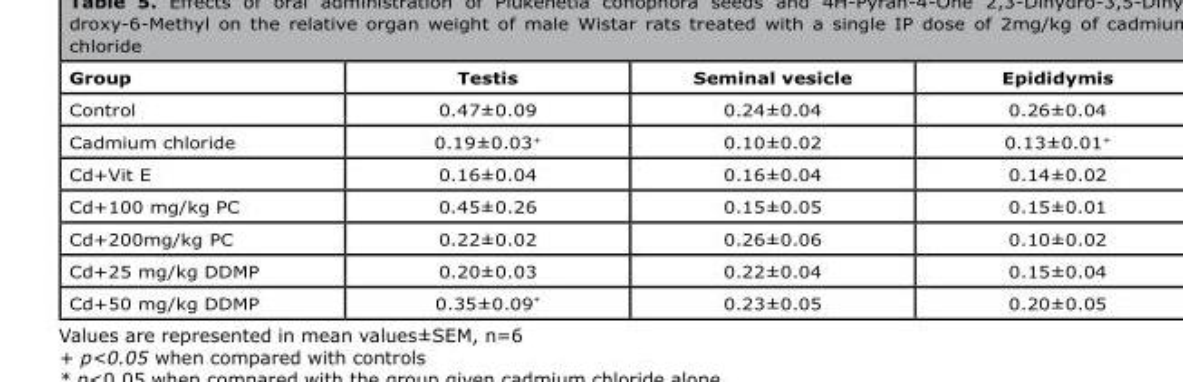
<table><thead><tr><td>Group</td><td>Testis</td><td>Seminal vesicle</td><td>Epididymis</td></tr></thead><tbody><tr><td>Control</td><td>0.47±0.09</td><td>0.24±0.04</td><td>0.26±0.04</td></tr><tr><td>Cadmium chloride</td><td>0.19±0.03<sup>+</sup></td><td>0.10±0.02</td><td>0.13±0.01<sup>+</sup></td></tr><tr><td>Cd+Vit E</td><td>0.16±0.04</td><td>0.16±0.04</td><td>0.14±0.02</td></tr><tr><td>Cd+100 mg/kg PC</td><td>0.45±0.26</td><td>0.15±0.05</td><td>0.15±0.01</td></tr><tr><td>Cd+200mg/kg PC</td><td>0.22±0.02</td><td>0.26±0.06</td><td>0.10±0.02</td></tr><tr><td>Cd+25 mg/kg DDMP</td><td>0.20±0.03</td><td>0.22±0.04</td><td>0.15±0.04</td></tr><tr><td>Cd+50 mg/kg DDMP</td><td>0.35±0.09*</td><td>0.23±0.05</td><td>0.20±0.05</td></tr></tbody></table>